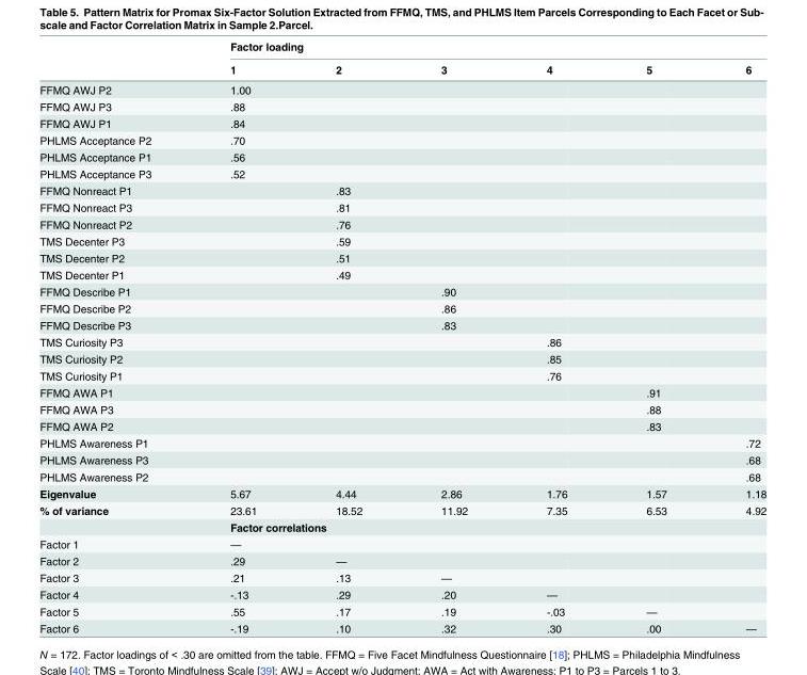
<table><thead><tr><td rowspan="2"></td><td colspan="6">Factor loading</td></tr><tr><td>1</td><td>2</td><td>3</td><td>4</td><td>5</td><td>6</td></tr></thead><tbody><tr><td>FFMQ AWJ P2</td><td>1.00</td><td></td><td></td><td></td><td></td><td></td></tr><tr><td>FFMQ AWJ P3</td><td>.88</td><td></td><td></td><td></td><td></td><td></td></tr><tr><td>FFMQ AWJ P1</td><td>.84</td><td></td><td></td><td></td><td></td><td></td></tr><tr><td>PHLMS Acceptance P2</td><td>.70</td><td></td><td></td><td></td><td></td><td></td></tr><tr><td>PHLMS Acceptance P1</td><td>.56</td><td></td><td></td><td></td><td></td><td></td></tr><tr><td>PHLMS Acceptance P3</td><td>.52</td><td></td><td></td><td></td><td></td><td></td></tr><tr><td>FFMQ Nonreact P1</td><td></td><td>.83</td><td></td><td></td><td></td><td></td></tr><tr><td>FFMQ Nonreact P3</td><td></td><td>.81</td><td></td><td></td><td></td><td></td></tr><tr><td>FFMQ Nonreact P2</td><td></td><td>.76</td><td></td><td></td><td></td><td></td></tr><tr><td>TMS Decenter P3</td><td></td><td>.59</td><td></td><td></td><td></td><td></td></tr><tr><td>TMS Decenter P2</td><td></td><td>.51</td><td></td><td></td><td></td><td></td></tr><tr><td>TMS Decenter P1</td><td></td><td>.49</td><td></td><td></td><td></td><td></td></tr><tr><td>FFMQ Describe P1</td><td></td><td></td><td>.90</td><td></td><td></td><td></td></tr><tr><td>FFMQ Describe P2</td><td></td><td></td><td>.86</td><td></td><td></td><td></td></tr><tr><td>FFMQ Describe P3</td><td></td><td></td><td>.83</td><td></td><td></td><td></td></tr><tr><td>TMS Curiosity P3</td><td></td><td></td><td></td><td>.86</td><td></td><td></td></tr><tr><td>TMS Curiosity P2</td><td></td><td></td><td></td><td>.85</td><td></td><td></td></tr><tr><td>TMS Curiosity P1</td><td></td><td></td><td></td><td>.76</td><td></td><td></td></tr><tr><td>FFMQ AWA P1</td><td></td><td></td><td></td><td></td><td>.91</td><td></td></tr><tr><td>FFMQ AWA P3</td><td></td><td></td><td></td><td></td><td>.88</td><td></td></tr><tr><td>FFMQ AWA P2</td><td></td><td></td><td></td><td></td><td>.83</td><td></td></tr><tr><td>PHLMS Awareness P1</td><td></td><td></td><td></td><td></td><td></td><td>.72</td></tr><tr><td>PHLMS Awareness P3</td><td></td><td></td><td></td><td></td><td></td><td>.68</td></tr><tr><td>PHLMS Awareness P2</td><td></td><td></td><td></td><td></td><td></td><td>.68</td></tr><tr><td>Eigenvalue</td><td>5.67</td><td>4.44</td><td>2.86</td><td>1.76</td><td>1.57</td><td>1.18</td></tr><tr><td rowspan="2">% of variance</td><td>23.61</td><td>18.52</td><td>11.92</td><td>7.35</td><td>6.53</td><td>4.92</td></tr><tr><td colspan="6">Factor correlations</td></tr><tr><td>Factor 1</td><td>—</td><td></td><td></td><td></td><td></td><td></td></tr><tr><td>Factor 2</td><td>.29</td><td>—</td><td></td><td></td><td></td><td></td></tr><tr><td>Factor 3</td><td>.21</td><td>.13</td><td>—</td><td></td><td></td><td></td></tr><tr><td>Factor 4</td><td>-.13</td><td>.29</td><td>.20</td><td>—</td><td></td><td></td></tr><tr><td>Factor 5</td><td>.55</td><td>.17</td><td>.19</td><td>-.03</td><td>—</td><td></td></tr><tr><td>Factor 6</td><td>-.19</td><td>.10</td><td>.32</td><td>.30</td><td>.00</td><td>—</td></tr></tbody></table>